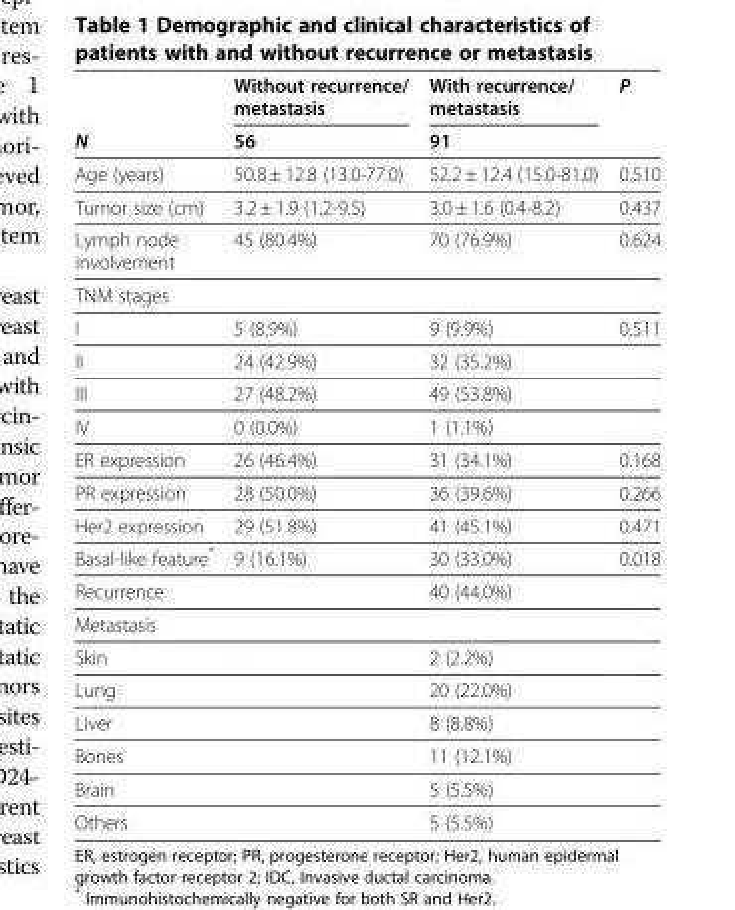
<table><thead><tr><td rowspan="2">N</td><td rowspan="2">Without recurrence/ metastasis 56</td><td rowspan="2">With recurrence/ metastasis 91</td><td rowspan="2">P</td></tr><tr></tr></thead><tbody><tr><td>Age (years)</td><td>50.8 ± 12.8 (13.0-77.0)</td><td>52.2 ± 12.4 (15.0-81.0)</td><td>0.510</td></tr><tr><td>Tumor size (cm)</td><td>3.2 ± 1.9 (1.2-9.5)</td><td>3.0 ± 1.6 (0.4-8.2)</td><td>0.437</td></tr><tr><td>Lymph node involvement</td><td>45 (80.4%)</td><td>70 (76.9%)</td><td>0.624</td></tr><tr><td colspan="4">TNM stages</td></tr><tr><td>I</td><td>5 (8.9%)</td><td>9 (9.9%)</td><td>0.511</td></tr><tr><td>II</td><td>24 (42.9%)</td><td>32 (35.2%)</td><td></td></tr><tr><td>III</td><td>27 (48.2%)</td><td>49 (53.8%)</td><td></td></tr><tr><td>IV</td><td>0 (0.0%)</td><td>1 (1.1%)</td><td></td></tr><tr><td>ER expression</td><td>26 (46.4%)</td><td>31 (34.1%)</td><td>0.168</td></tr><tr><td>PR expression</td><td>28 (50.0%)</td><td>36 (39.6%)</td><td>0.266</td></tr><tr><td>Her2 expression</td><td>29 (51.8%)</td><td>41 (45.1%)</td><td>0.471</td></tr><tr><td>Basal-like feature*</td><td>9 (16.1%)</td><td>30 (33.0%)</td><td>0.018</td></tr><tr><td>Recurrence</td><td></td><td>40 (44.0%)</td><td></td></tr><tr><td colspan="4">Metastasis</td></tr><tr><td>Skin</td><td></td><td>2 (2.2%)</td><td></td></tr><tr><td>Lung</td><td></td><td>20 (22.0%)</td><td></td></tr><tr><td>Liver</td><td></td><td>8 (8.8%)</td><td></td></tr><tr><td>Bones</td><td></td><td>11 (12.1%)</td><td></td></tr><tr><td>Brain</td><td></td><td>5 (5.5%)</td><td></td></tr><tr><td>Others</td><td></td><td>5 (5.5%)</td><td></td></tr></tbody></table>